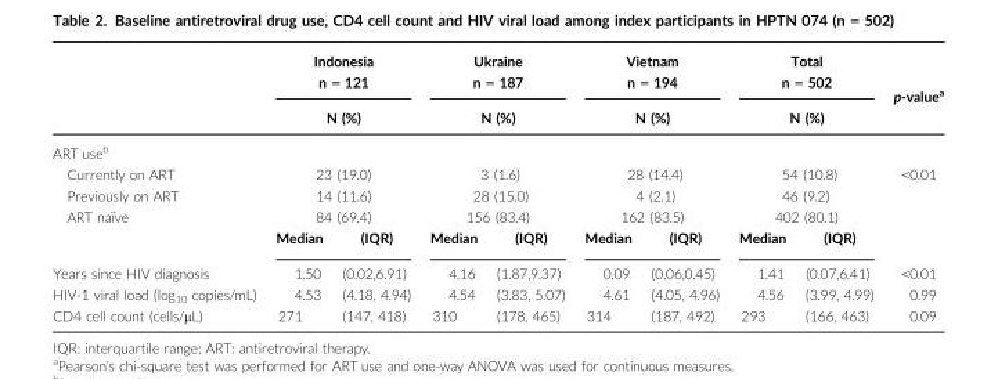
<table><thead><tr><td rowspan="2"></td><td rowspan="2" colspan="2">Indonesia n = 121 N (%)</td><td rowspan="2" colspan="2">Ukraine n = 187 N (%)</td><td rowspan="2" colspan="2">Vietnam n = 194 N (%)</td><td rowspan="2" colspan="2">Total n = 502 N (%)</td><td rowspan="2">p-value<sup>a</sup></td></tr><tr></tr></thead><tbody><tr><td colspan="10">ART use<sup>b</sup></td></tr><tr><td>Currently on ART</td><td colspan="2">23 (19.0)</td><td colspan="2">3 (1.6)</td><td colspan="2">28 (14.4)</td><td colspan="2">54 (10.8)</td><td rowspan="3">&lt;0.01</td></tr><tr><td>Previously on ART</td><td colspan="2">14 (11.6)</td><td colspan="2">28 (15.0)</td><td colspan="2">4 (2.1)</td><td colspan="2">46 (9.2)</td></tr><tr><td rowspan="2">ART na€ıve</td><td colspan="2">84 (69.4)</td><td colspan="2">156 (83.4)</td><td colspan="2">162 (83.5)</td><td colspan="2">402 (80.1)</td></tr><tr><td>Median</td><td>(IQR)</td><td>Median</td><td>(IQR)</td><td>Median</td><td>(IQR)</td><td>Median</td><td>(IQR)</td><td></td></tr><tr><td>Years since HIV diagnosis</td><td>1.50</td><td>(0.02,6.91)</td><td>4.16</td><td>(1.87,9.37)</td><td>0.09</td><td>(0.06,0.45)</td><td>1.41</td><td>(0.07,6.41)</td><td>&lt;0.01</td></tr><tr><td>HIV-1 viral load (log<sub>10</sub> copies/mL)</td><td>4.53</td><td>(4.18, 4.94)</td><td>4.54</td><td>(3.83, 5.07)</td><td>4.61</td><td>(4.05, 4.96)</td><td>4.56</td><td>(3.99, 4.99)</td><td>0.99</td></tr><tr><td>CD4 cell count (cells/μL)</td><td>271</td><td>(147, 418)</td><td>310</td><td>(178, 465)</td><td>314</td><td>(187, 492)</td><td>293</td><td>(166, 463)</td><td>0.09</td></tr></tbody></table>